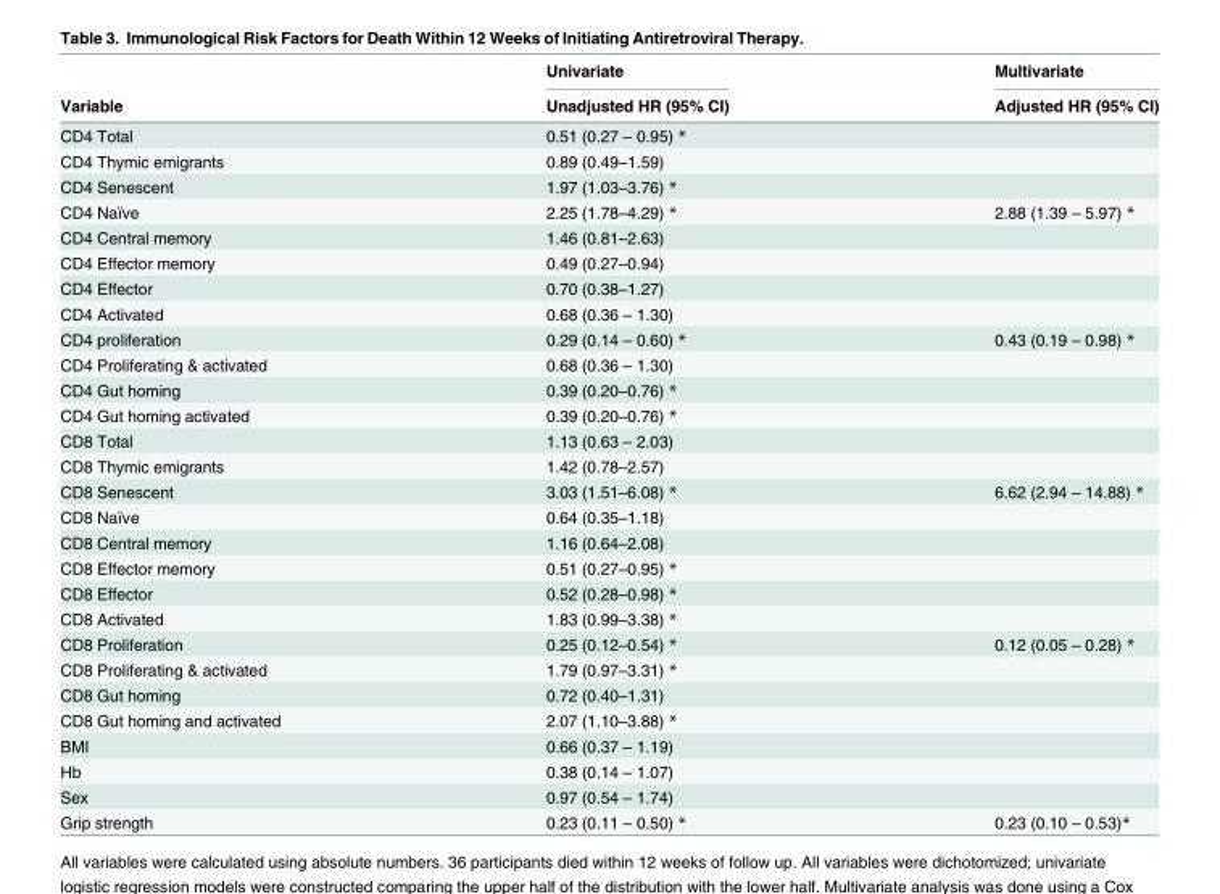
<table><thead><tr><td rowspan="2">Variable</td><td rowspan="2">Univariate Unadjusted HR (95% CI)</td><td rowspan="2">Multivariate Adjusted HR (95% CI)</td></tr><tr></tr></thead><tbody><tr><td>CD4 Total</td><td>0.51 (0.27 – 0.95) *</td><td></td></tr><tr><td>CD4 Thymic emigrants</td><td>0.89 (0.49–1.59)</td><td></td></tr><tr><td>CD4 Senescent</td><td>1.97 (1.03–3.76) *</td><td></td></tr><tr><td>CD4 Naïve</td><td>2.25 (1.78–4.29) *</td><td>2.88 (1.39 – 5.97) *</td></tr><tr><td>CD4 Central memory</td><td>1.46 (0.81–2.63)</td><td></td></tr><tr><td>CD4 Effector memory</td><td>0.49 (0.27–0.94)</td><td></td></tr><tr><td>CD4 Effector</td><td>0.70 (0.38–1.27)</td><td></td></tr><tr><td>CD4 Activated</td><td>0.68 (0.36 – 1.30)</td><td></td></tr><tr><td>CD4 proliferation</td><td>0.29 (0.14 – 0.60) *</td><td>0.43 (0.19 – 0.98) *</td></tr><tr><td>CD4 Proliferating &amp; activated</td><td>0.68 (0.36 – 1.30)</td><td></td></tr><tr><td>CD4 Gut homing</td><td>0.39 (0.20–0.76) *</td><td></td></tr><tr><td>CD4 Gut homing activated</td><td>0.39 (0.20–0.76) *</td><td></td></tr><tr><td>CD8 Total</td><td>1.13 (0.63 – 2.03)</td><td></td></tr><tr><td>CD8 Thymic emigrants</td><td>1.42 (0.78–2.57)</td><td></td></tr><tr><td>CD8 Senescent</td><td>3.03 (1.51–6.08) *</td><td>6.62 (2.94 – 14.88) *</td></tr><tr><td>CD8 Naïve</td><td>0.64 (0.35–1.18)</td><td></td></tr><tr><td>CD8 Central memory</td><td>1.16 (0.64–2.08)</td><td></td></tr><tr><td>CD8 Effector memory</td><td>0.51 (0.27–0.95) *</td><td></td></tr><tr><td>CD8 Effector</td><td>0.52 (0.28–0.98) *</td><td></td></tr><tr><td>CD8 Activated</td><td>1.83 (0.99–3.38) *</td><td></td></tr><tr><td>CD8 Proliferation</td><td>0.25 (0.12–0.54) *</td><td>0.12 (0.05 – 0.28) *</td></tr><tr><td>CD8 Proliferating &amp; activated</td><td>1.79 (0.97–3.31) *</td><td></td></tr><tr><td>CD8 Gut homing</td><td>0.72 (0.40–1.31)</td><td></td></tr><tr><td>CD8 Gut homing and activated</td><td>2.07 (1.10–3.88) *</td><td></td></tr><tr><td>BMI</td><td>0.66 (0.37 – 1.19)</td><td></td></tr><tr><td>Hb</td><td>0.38 (0.14 – 1.07)</td><td></td></tr><tr><td>Sex</td><td>0.97 (0.54 – 1.74)</td><td></td></tr><tr><td>Grip strength</td><td>0.23 (0.11 – 0.50) *</td><td>0.23 (0.10 – 0.53)*</td></tr></tbody></table>